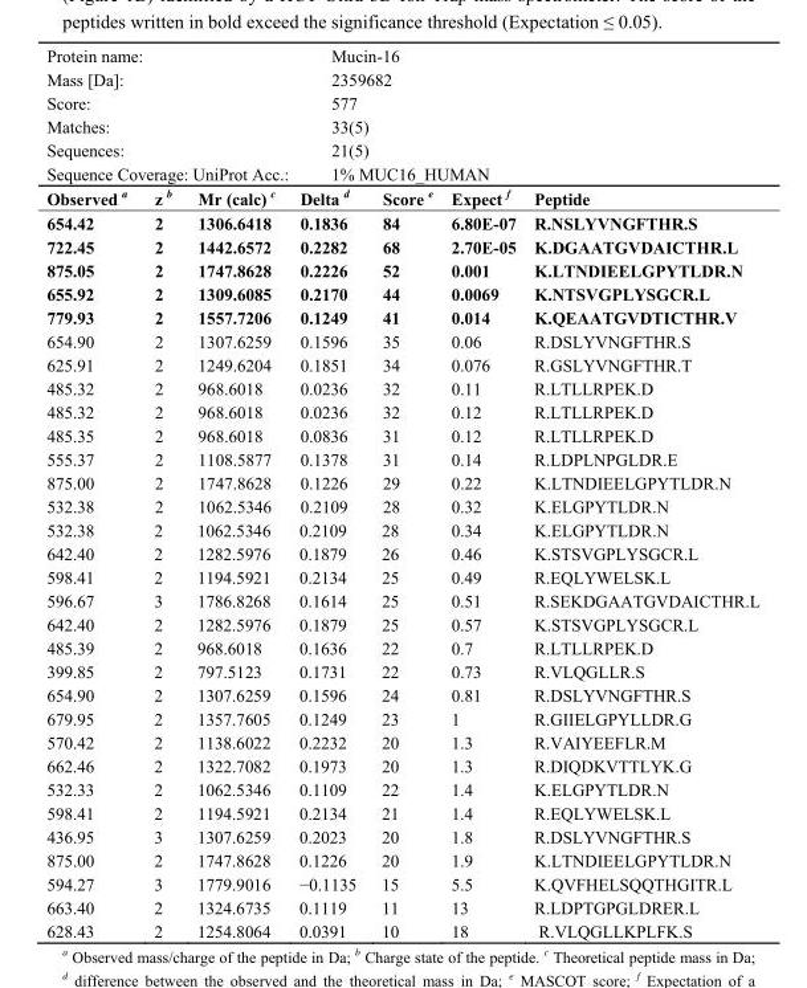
<table><thead><tr><td rowspan="6" colspan="3">Protein name: Mass [Da]: Score: Matches: Sequences: Sequence Coverage: UniProt Acc.:</td><td rowspan="6" colspan="4">Mucin-16 2359682 577 33(5) 21(5) 1% MUC16_HUMAN</td></tr><tr></tr><tr></tr><tr></tr><tr></tr><tr></tr><tr><td>Observed a</td><td>z b</td><td>Mr (calc) c</td><td>Delta d</td><td>Score e</td><td>Expect f</td><td>Peptide</td></tr></thead><tbody><tr><td>654.42</td><td>2</td><td>1306.6418</td><td>0.1836</td><td>84</td><td>6.80E-07</td><td>R.NSLYVNGFTHR.S</td></tr><tr><td>722.45</td><td>2</td><td>1442.6572</td><td>0.2282</td><td>68</td><td>2.70E-05</td><td>K.DGAATGVDAICTHR.L</td></tr><tr><td>875.05</td><td>2</td><td>1747.8628</td><td>0.2226</td><td>52</td><td>0.001</td><td>K.LTNDIEELGPYTLDR.N</td></tr><tr><td>655.92</td><td>2</td><td>1309.6085</td><td>0.2170</td><td>44</td><td>0.0069</td><td>K.NTSVGPLYSGCR.L</td></tr><tr><td>779.93</td><td>2</td><td>1557.7206</td><td>0.1249</td><td>41</td><td>0.014</td><td>K.QEAATGVDTICTHR.V</td></tr><tr><td>654.90</td><td>2</td><td>1307.6259</td><td>0.1596</td><td>35</td><td>0.06</td><td>R.DSLYVNGFTHR.S</td></tr><tr><td>625.91</td><td>2</td><td>1249.6204</td><td>0.1851</td><td>34</td><td>0.076</td><td>R.GSLYVNGFTHR.T</td></tr><tr><td>485.32</td><td>2</td><td>968.6018</td><td>0.0236</td><td>32</td><td>0.11</td><td>R.LTLLRPEK.D</td></tr><tr><td>485.32</td><td>2</td><td>968.6018</td><td>0.0236</td><td>32</td><td>0.12</td><td>R.LTLLRPEK.D</td></tr><tr><td>485.35</td><td>2</td><td>968.6018</td><td>0.0836</td><td>31</td><td>0.12</td><td>R.LTLLRPEK.D</td></tr><tr><td>555.37</td><td>2</td><td>1108.5877</td><td>0.1378</td><td>31</td><td>0.14</td><td>R.LDPLNPGLDR.E</td></tr><tr><td>875.00</td><td>2</td><td>1747.8628</td><td>0.1226</td><td>29</td><td>0.22</td><td>K.LTNDIEELGPYTLDR.N</td></tr><tr><td>532.38</td><td>2</td><td>1062.5346</td><td>0.2109</td><td>28</td><td>0.32</td><td>K.ELGPYTLDR.N</td></tr><tr><td>532.38</td><td>2</td><td>1062.5346</td><td>0.2109</td><td>28</td><td>0.34</td><td>K.ELGPYTLDR.N</td></tr><tr><td>642.40</td><td>2</td><td>1282.5976</td><td>0.1879</td><td>26</td><td>0.46</td><td>K.STSVGPLYSGCR.L</td></tr><tr><td>598.41</td><td>2</td><td>1194.5921</td><td>0.2134</td><td>25</td><td>0.49</td><td>R.EQLYWELSK.L</td></tr><tr><td>596.67</td><td>3</td><td>1786.8268</td><td>0.1614</td><td>25</td><td>0.51</td><td>R.SEKDGAATGVDAICTHR.L</td></tr><tr><td>642.40</td><td>2</td><td>1282.5976</td><td>0.1879</td><td>25</td><td>0.57</td><td>K.STSVGPLYSGCR.L</td></tr><tr><td>485.39</td><td>2</td><td>968.6018</td><td>0.1636</td><td>22</td><td>0.7</td><td>R.LTLLRPEK.D</td></tr><tr><td>399.85</td><td>2</td><td>797.5123</td><td>0.1731</td><td>22</td><td>0.73</td><td>R.VLQGLLR.S</td></tr><tr><td>654.90</td><td>2</td><td>1307.6259</td><td>0.1596</td><td>24</td><td>0.81</td><td>R.DSLYVNGFTHR.S</td></tr><tr><td>679.95</td><td>2</td><td>1357.7605</td><td>0.1249</td><td>23</td><td>1</td><td>R.GIIELGPYLLDR.G</td></tr><tr><td>570.42</td><td>2</td><td>1138.6022</td><td>0.2232</td><td>20</td><td>1.3</td><td>R.VAIYEEFLR.M</td></tr><tr><td>662.46</td><td>2</td><td>1322.7082</td><td>0.1973</td><td>20</td><td>1.3</td><td>R.DIQDKVTTLYK.G</td></tr><tr><td>532.33</td><td>2</td><td>1062.5346</td><td>0.1109</td><td>22</td><td>1.4</td><td>K.ELGPYTLDR.N</td></tr><tr><td>598.41</td><td>2</td><td>1194.5921</td><td>0.2134</td><td>21</td><td>1.4</td><td>R.EQLYWELSK.L</td></tr><tr><td>436.95</td><td>3</td><td>1307.6259</td><td>0.2023</td><td>20</td><td>1.8</td><td>R.DSLYVNGFTHR.S</td></tr><tr><td>875.00</td><td>2</td><td>1747.8628</td><td>0.1226</td><td>20</td><td>1.9</td><td>K.LTNDIEELGPYTLDR.N</td></tr><tr><td>594.27</td><td>3</td><td>1779.9016</td><td>−0.1135</td><td>15</td><td>5.5</td><td>K.QVFHELSQQTHGITR.L</td></tr><tr><td>663.40</td><td>2</td><td>1324.6735</td><td>0.1119</td><td>11</td><td>13</td><td>R.LDPTGPGLDRER.L</td></tr><tr><td>628.43</td><td>2</td><td>1254.8064</td><td>0.0391</td><td>10</td><td>18</td><td>R.VLQGLLKPLFK.S</td></tr></tbody></table>